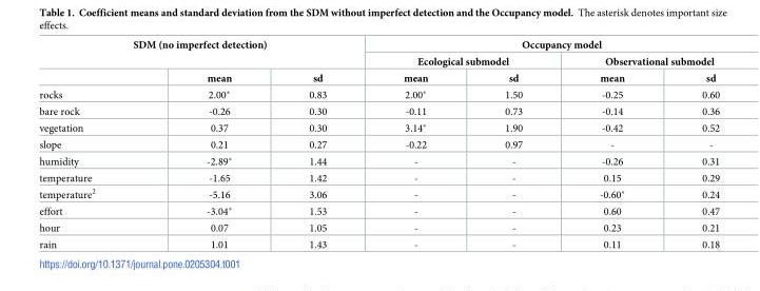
<table><thead><tr><td rowspan="2" colspan="3">SDM (no imperfect detection)</td><td colspan="4">Occupancy model</td></tr><tr><td colspan="2">Ecological submodel</td><td colspan="2">Observational submodel</td></tr><tr><td></td><td>mean</td><td>sd</td><td>mean</td><td>sd</td><td>mean</td><td>sd</td></tr></thead><tbody><tr><td>rocks</td><td>2.00*</td><td>0.83</td><td>2.00*</td><td>1.50</td><td>-0.25</td><td>0.60</td></tr><tr><td>bare rock</td><td>-0.26</td><td>0.30</td><td>-0.11</td><td>0.73</td><td>-0.14</td><td>0.36</td></tr><tr><td>vegetation</td><td>0.37</td><td>0.30</td><td>3.14*</td><td>1.90</td><td>-0.42</td><td>0.52</td></tr><tr><td>slope</td><td>0.21</td><td>0.27</td><td>-0.22</td><td>0.97</td><td>-</td><td>-</td></tr><tr><td>humidity</td><td>-2.89*</td><td>1.44</td><td>-</td><td>-</td><td>-0.26</td><td>0.31</td></tr><tr><td>temperature</td><td>-1.65</td><td>1.42</td><td>-</td><td>-</td><td>0.15</td><td>0.29</td></tr><tr><td>temperature<sup>2</sup></td><td>-5.16</td><td>3.06</td><td>-</td><td>-</td><td>-0.60*</td><td>0.24</td></tr><tr><td>effort</td><td>-3.04*</td><td>1.53</td><td>-</td><td>-</td><td>0.60</td><td>0.47</td></tr><tr><td>hour</td><td>0.07</td><td>1.05</td><td>-</td><td>-</td><td>0.23</td><td>0.21</td></tr><tr><td>rain</td><td>1.01</td><td>1.43</td><td>-</td><td>-</td><td>0.11</td><td>0.18</td></tr></tbody></table>